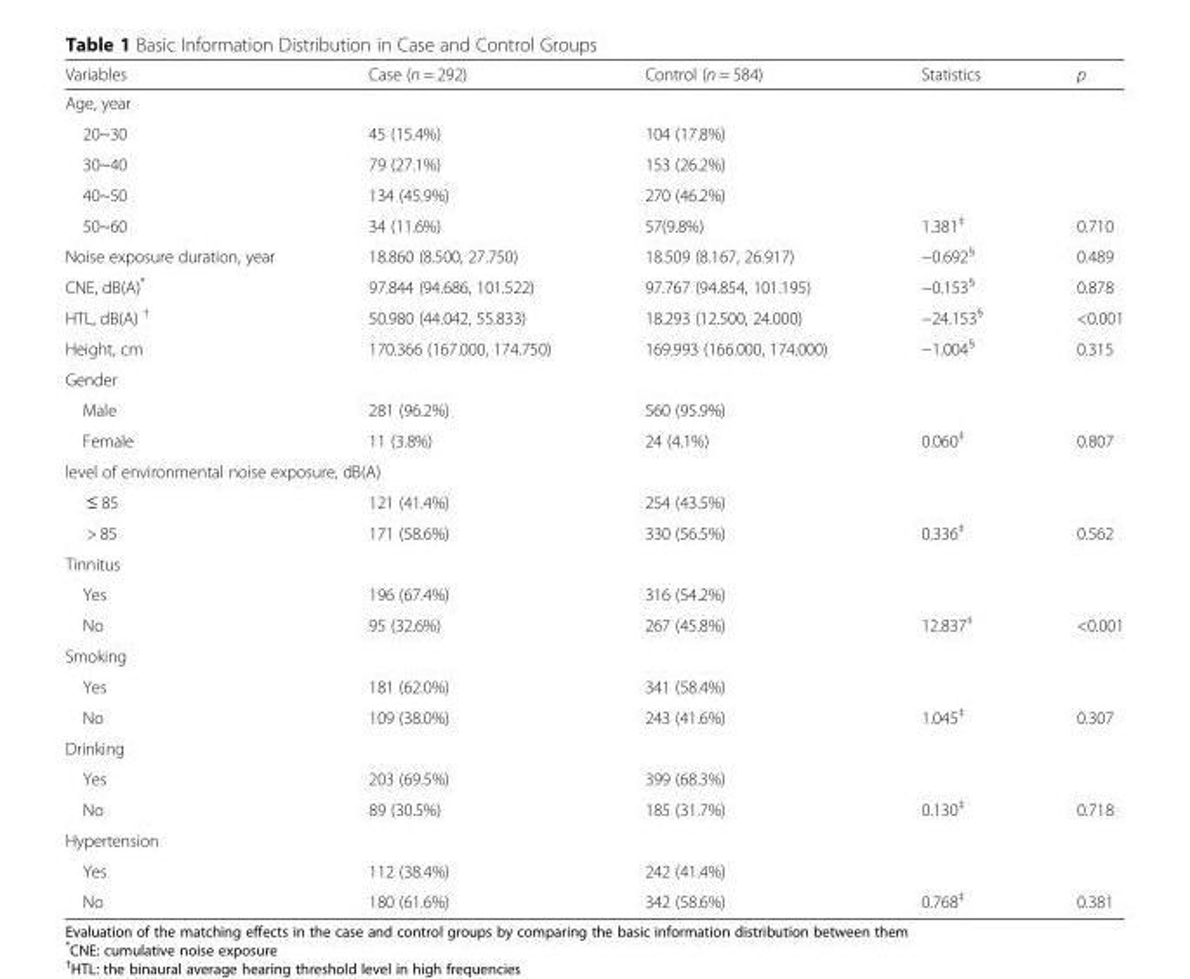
<table><thead><tr><td>Variables</td><td>Case (n = 292)</td><td>Control (n = 584)</td><td>Statistics</td><td>p</td></tr></thead><tbody><tr><td colspan="5">Age, year</td></tr><tr><td>20~30</td><td>45 (15.4%)</td><td>104 (17.8%)</td><td></td><td></td></tr><tr><td>30~40</td><td>79 (27.1%)</td><td>153 (26.2%)</td><td></td><td></td></tr><tr><td>40~50</td><td>134 (45.9%)</td><td>270 (46.2%)</td><td></td><td></td></tr><tr><td>50~60</td><td>34 (11.6%)</td><td>57(9.8%)</td><td>1.381<sup>‡</sup></td><td>0.710</td></tr><tr><td>Noise exposure duration, year</td><td>18.860 (8.500, 27.750)</td><td>18.509 (8.167, 26.917)</td><td>−0.692<sup>§</sup></td><td>0.489</td></tr><tr><td>CNE, dB(A)*</td><td>97.844 (94.686, 101.522)</td><td>97.767 (94.854, 101.195)</td><td>−0.153<sup>§</sup></td><td>0.878</td></tr><tr><td>HTL, dB(A) <sup>†</sup></td><td>50.980 (44.042, 55.833)</td><td>18.293 (12.500, 24.000)</td><td>−24.153<sup>§</sup></td><td>&lt;0.001</td></tr><tr><td>Height, cm</td><td>170.366 (167.000, 174.750)</td><td>169.993 (166.000, 174.000)</td><td>−1.004<sup>§</sup></td><td>0.315</td></tr><tr><td colspan="5">Gender</td></tr><tr><td>Male</td><td>281 (96.2%)</td><td>560 (95.9%)</td><td></td><td></td></tr><tr><td>Female</td><td>11 (3.8%)</td><td>24 (4.1%)</td><td>0.060<sup>‡</sup></td><td>0.807</td></tr><tr><td colspan="5">level of environmental noise exposure, dB(A)</td></tr><tr><td>≤ 85</td><td>121 (41.4%)</td><td>254 (43.5%)</td><td></td><td></td></tr><tr><td>&gt; 85</td><td>171 (58.6%)</td><td>330 (56.5%)</td><td>0.336<sup>‡</sup></td><td>0.562</td></tr><tr><td colspan="5">Tinnitus</td></tr><tr><td>Yes</td><td>196 (67.4%)</td><td>316 (54.2%)</td><td></td><td></td></tr><tr><td>No</td><td>95 (32.6%)</td><td>267 (45.8%)</td><td>12.837<sup>‡</sup></td><td>&lt;0.001</td></tr><tr><td colspan="5">Smoking</td></tr><tr><td>Yes</td><td>181 (62.0%)</td><td>341 (58.4%)</td><td></td><td></td></tr><tr><td>No</td><td>109 (38.0%)</td><td>243 (41.6%)</td><td>1.045<sup>‡</sup></td><td>0.307</td></tr><tr><td colspan="5">Drinking</td></tr><tr><td>Yes</td><td>203 (69.5%)</td><td>399 (68.3%)</td><td></td><td></td></tr><tr><td>No</td><td>89 (30.5%)</td><td>185 (31.7%)</td><td>0.130<sup>‡</sup></td><td>0.718</td></tr><tr><td colspan="5">Hypertension</td></tr><tr><td>Yes</td><td>112 (38.4%)</td><td>242 (41.4%)</td><td></td><td></td></tr><tr><td>No</td><td>180 (61.6%)</td><td>342 (58.6%)</td><td>0.768<sup>‡</sup></td><td>0.381</td></tr></tbody></table>